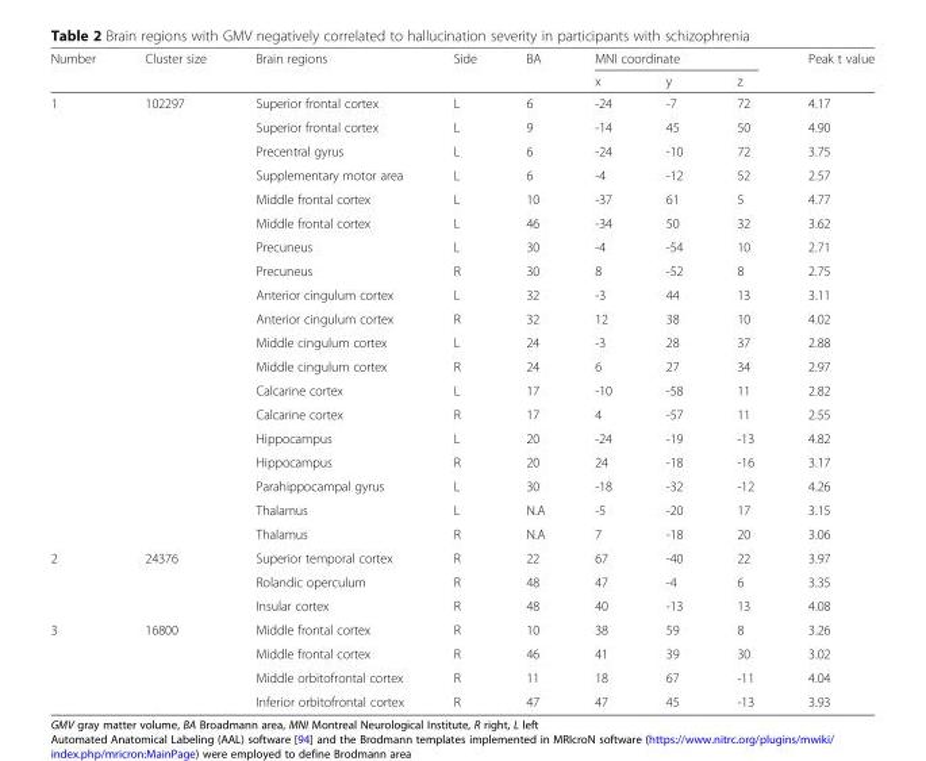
<table><thead><tr><td rowspan="2">Number</td><td rowspan="2">Cluster size</td><td rowspan="2">Brain regions</td><td rowspan="2">Side</td><td rowspan="2">BA</td><td colspan="3">MNI coordinate</td><td rowspan="2">Peak t value</td></tr><tr><td>x</td><td>y</td><td>z</td></tr></thead><tbody><tr><td rowspan="19">1</td><td>102297</td><td>Superior frontal cortex</td><td>L</td><td>6</td><td>-24</td><td>-7</td><td>72</td><td>4.17</td></tr><tr><td></td><td>Superior frontal cortex</td><td>L</td><td>9</td><td>-14</td><td>45</td><td>50</td><td>4.90</td></tr><tr><td></td><td>Precentral gyrus</td><td>L</td><td>6</td><td>-24</td><td>-10</td><td>72</td><td>3.75</td></tr><tr><td></td><td>Supplementary motor area</td><td>L</td><td>6</td><td>-4</td><td>-12</td><td>52</td><td>2.57</td></tr><tr><td></td><td>Middle frontal cortex</td><td>L</td><td>10</td><td>-37</td><td>61</td><td>5</td><td>4.77</td></tr><tr><td></td><td>Middle frontal cortex</td><td>L</td><td>46</td><td>-34</td><td>50</td><td>32</td><td>3.62</td></tr><tr><td></td><td>Precuneus</td><td>L</td><td>30</td><td>-4</td><td>-54</td><td>10</td><td>2.71</td></tr><tr><td></td><td>Precuneus</td><td>R</td><td>30</td><td>8</td><td>-52</td><td>8</td><td>2.75</td></tr><tr><td></td><td>Anterior cingulum cortex</td><td>L</td><td>32</td><td>-3</td><td>44</td><td>13</td><td>3.11</td></tr><tr><td></td><td>Anterior cingulum cortex</td><td>R</td><td>32</td><td>12</td><td>38</td><td>10</td><td>4.02</td></tr><tr><td></td><td>Middle cingulum cortex</td><td>L</td><td>24</td><td>-3</td><td>28</td><td>37</td><td>2.88</td></tr><tr><td></td><td>Middle cingulum cortex</td><td>R</td><td>24</td><td>6</td><td>27</td><td>34</td><td>2.97</td></tr><tr><td></td><td>Calcarine cortex</td><td>L</td><td>17</td><td>-10</td><td>-58</td><td>11</td><td>2.82</td></tr><tr><td></td><td>Calcarine cortex</td><td>R</td><td>17</td><td>4</td><td>-57</td><td>11</td><td>2.55</td></tr><tr><td></td><td>Hippocampus</td><td>L</td><td>20</td><td>-24</td><td>-19</td><td>-13</td><td>4.82</td></tr><tr><td></td><td>Hippocampus</td><td>R</td><td>20</td><td>24</td><td>-18</td><td>-16</td><td>3.17</td></tr><tr><td></td><td>Parahippocampal gyrus</td><td>L</td><td>30</td><td>-18</td><td>-32</td><td>-12</td><td>4.26</td></tr><tr><td></td><td>Thalamus</td><td>L</td><td>N.A</td><td>-5</td><td>-20</td><td>17</td><td>3.15</td></tr><tr><td></td><td>Thalamus</td><td>R</td><td>N.A</td><td>7</td><td>-18</td><td>20</td><td>3.06</td></tr><tr><td rowspan="3">2</td><td>24376</td><td>Superior temporal cortex</td><td>R</td><td>22</td><td>67</td><td>-40</td><td>22</td><td>3.97</td></tr><tr><td></td><td>Rolandic operculum</td><td>R</td><td>48</td><td>47</td><td>-4</td><td>6</td><td>3.35</td></tr><tr><td></td><td>Insular cortex</td><td>R</td><td>48</td><td>40</td><td>-13</td><td>13</td><td>4.08</td></tr><tr><td rowspan="4">3</td><td>16800</td><td>Middle frontal cortex</td><td>R</td><td>10</td><td>38</td><td>59</td><td>8</td><td>3.26</td></tr><tr><td></td><td>Middle frontal cortex</td><td>R</td><td>46</td><td>41</td><td>39</td><td>30</td><td>3.02</td></tr><tr><td></td><td>Middle orbitofrontal cortex</td><td>R</td><td>11</td><td>18</td><td>67</td><td>-11</td><td>4.04</td></tr><tr><td></td><td>Inferior orbitofrontal cortex</td><td>R</td><td>47</td><td>47</td><td>45</td><td>-13</td><td>3.93</td></tr></tbody></table>